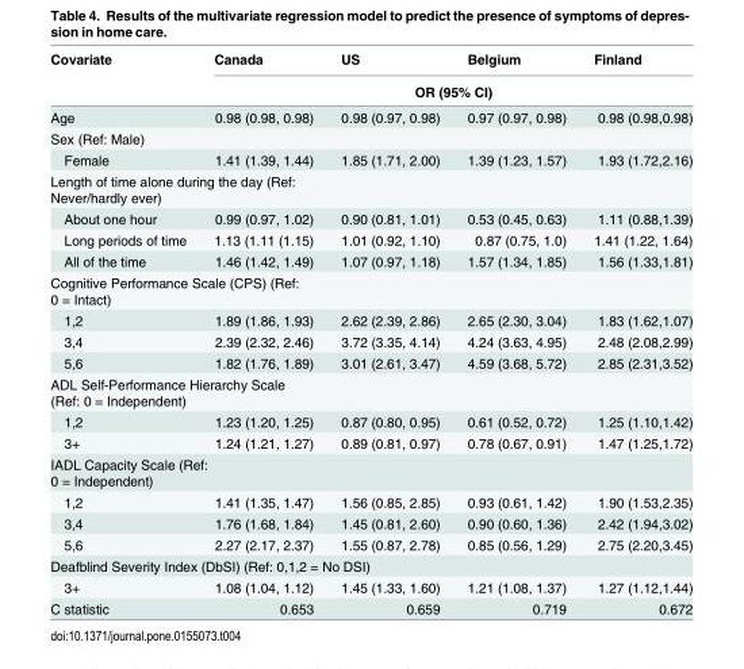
<table><thead><tr><td rowspan="2">Covariate</td><td>Canada</td><td>US</td><td>Belgium</td><td>Finland</td></tr><tr><td colspan="4">OR (95% CI)</td></tr></thead><tbody><tr><td>Age</td><td>0.98 (0.98, 0.98)</td><td>0.98 (0.97, 0.98)</td><td>0.97 (0.97, 0.98)</td><td>0.98 (0.98,0.98)</td></tr><tr><td colspan="5">Sex (Ref: Male)</td></tr><tr><td>Female</td><td>1.41 (1.39, 1.44)</td><td>1.85 (1.71, 2.00)</td><td>1.39 (1.23, 1.57)</td><td>1.93 (1.72,2.16)</td></tr><tr><td colspan="5">Length of time alone during the day (Ref: Never/hardly ever)</td></tr><tr><td>About one hour</td><td>0.99 (0.97, 1.02)</td><td>0.90 (0.81, 1.01)</td><td>0.53 (0.45, 0.63)</td><td>1.11 (0.88,1.39)</td></tr><tr><td>Long periods of time</td><td>1.13 (1.11 (1.15)</td><td>1.01 (0.92, 1.10)</td><td>0.87 (0.75, 1.0)</td><td>1.41 (1.22, 1.64)</td></tr><tr><td>All of the time</td><td>1.46 (1.42, 1.49)</td><td>1.07 (0.97, 1.18)</td><td>1.57 (1.34, 1.85)</td><td>1.56 (1.33,1.81)</td></tr><tr><td colspan="5">Cognitive Performance Scale (CPS) (Ref: 0 = Intact)</td></tr><tr><td>1,2</td><td>1.89 (1.86, 1.93)</td><td>2.62 (2.39, 2.86)</td><td>2.65 (2.30, 3.04)</td><td>1.83 (1.62,1.07)</td></tr><tr><td>3,4</td><td>2.39 (2.32, 2.46)</td><td>3.72 (3.35, 4.14)</td><td>4.24 (3.63, 4.95)</td><td>2.48 (2.08,2.99)</td></tr><tr><td>5,6</td><td>1.82 (1.76, 1.89)</td><td>3.01 (2.61, 3.47)</td><td>4.59 (3.68, 5.72)</td><td>2.85 (2.31,3.52)</td></tr><tr><td colspan="5">ADL Self-Performance Hierarchy Scale (Ref: 0 = Independent)</td></tr><tr><td>1,2</td><td>1.23 (1.20, 1.25)</td><td>0.87 (0.80, 0.95)</td><td>0.61 (0.52, 0.72)</td><td>1.25 (1.10,1.42)</td></tr><tr><td>3+</td><td>1.24 (1.21, 1.27)</td><td>0.89 (0.81, 0.97)</td><td>0.78 (0.67, 0.91)</td><td>1.47 (1.25,1.72)</td></tr><tr><td colspan="5">IADL Capacity Scale (Ref: 0 = Independent)</td></tr><tr><td>1,2</td><td>1.41 (1.35, 1.47)</td><td>1.56 (0.85, 2.85)</td><td>0.93 (0.61, 1.42)</td><td>1.90 (1.53,2.35)</td></tr><tr><td>3,4</td><td>1.76 (1.68, 1.84)</td><td>1.45 (0.81, 2.60)</td><td>0.90 (0.60, 1.36)</td><td>2.42 (1.94,3.02)</td></tr><tr><td>5,6</td><td>2.27 (2.17, 2.37)</td><td>1.55 (0.87, 2.78)</td><td>0.85 (0.56, 1.29)</td><td>2.75 (2.20,3.45)</td></tr><tr><td colspan="5">Deafblind Severity Index (DbSI) (Ref: 0,1,2 = No DSI)</td></tr><tr><td>3+</td><td>1.08 (1.04, 1.12)</td><td>1.45 (1.33, 1.60)</td><td>1.21 (1.08, 1.37)</td><td>1.27 (1.12,1.44)</td></tr><tr><td>C statistic</td><td>0.653</td><td>0.659</td><td>0.719</td><td>0.672</td></tr></tbody></table>